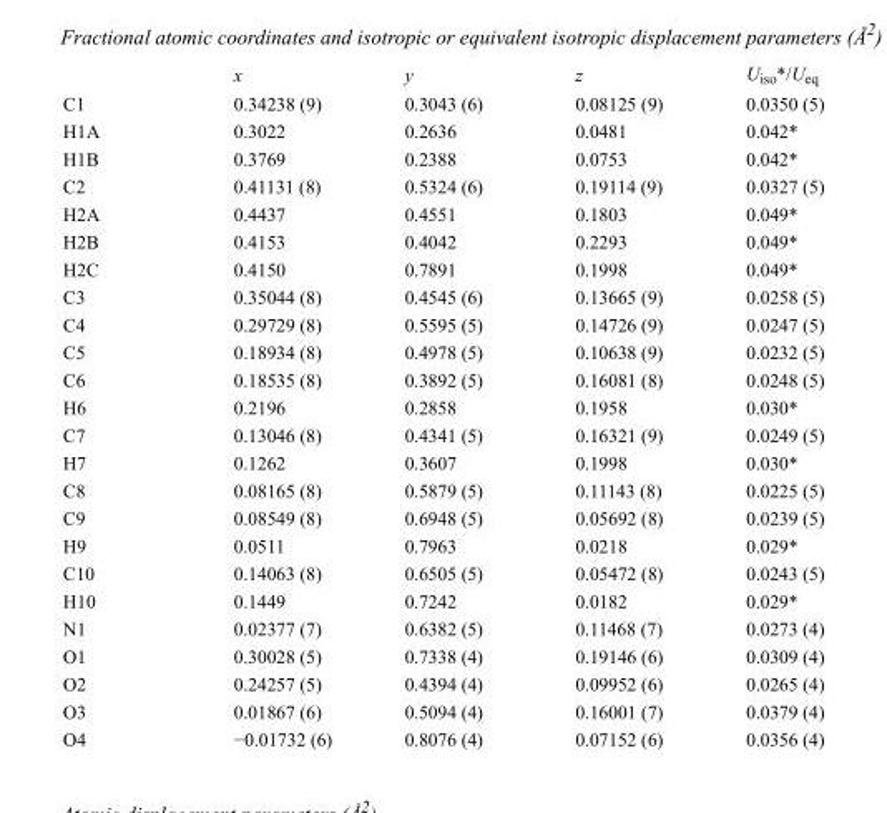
<table><thead><tr><td></td><td>x</td><td>y</td><td>z</td><td>U<sub>iso</sub>*/U<sub>eq</sub></td></tr></thead><tbody><tr><td>C1</td><td>0.34238 (9)</td><td>0.3043 (6)</td><td>0.08125 (9)</td><td>0.0350 (5)</td></tr><tr><td>H1A</td><td>0.3022</td><td>0.2636</td><td>0.0481</td><td>0.042*</td></tr><tr><td>H1B</td><td>0.3769</td><td>0.2388</td><td>0.0753</td><td>0.042*</td></tr><tr><td>C2</td><td>0.41131 (8)</td><td>0.5324 (6)</td><td>0.19114 (9)</td><td>0.0327 (5)</td></tr><tr><td>H2A</td><td>0.4437</td><td>0.4551</td><td>0.1803</td><td>0.049*</td></tr><tr><td>H2B</td><td>0.4153</td><td>0.4042</td><td>0.2293</td><td>0.049*</td></tr><tr><td>H2C</td><td>0.4150</td><td>0.7891</td><td>0.1998</td><td>0.049*</td></tr><tr><td>C3</td><td>0.35044 (8)</td><td>0.4545 (6)</td><td>0.13665 (9)</td><td>0.0258 (5)</td></tr><tr><td>C4</td><td>0.29729 (8)</td><td>0.5595 (5)</td><td>0.14726 (9)</td><td>0.0247 (5)</td></tr><tr><td>C5</td><td>0.18934 (8)</td><td>0.4978 (5)</td><td>0.10638 (9)</td><td>0.0232 (5)</td></tr><tr><td>C6</td><td>0.18535 (8)</td><td>0.3892 (5)</td><td>0.16081 (8)</td><td>0.0248 (5)</td></tr><tr><td>H6</td><td>0.2196</td><td>0.2858</td><td>0.1958</td><td>0.030*</td></tr><tr><td>C7</td><td>0.13046 (8)</td><td>0.4341 (5)</td><td>0.16321 (9)</td><td>0.0249 (5)</td></tr><tr><td>H7</td><td>0.1262</td><td>0.3607</td><td>0.1998</td><td>0.030*</td></tr><tr><td>C8</td><td>0.08165 (8)</td><td>0.5879 (5)</td><td>0.11143 (8)</td><td>0.0225 (5)</td></tr><tr><td>C9</td><td>0.08549 (8)</td><td>0.6948 (5)</td><td>0.05692 (8)</td><td>0.0239 (5)</td></tr><tr><td>H9</td><td>0.0511</td><td>0.7963</td><td>0.0218</td><td>0.029*</td></tr><tr><td>C10</td><td>0.14063 (8)</td><td>0.6505 (5)</td><td>0.05472 (8)</td><td>0.0243 (5)</td></tr><tr><td>H10</td><td>0.1449</td><td>0.7242</td><td>0.0182</td><td>0.029*</td></tr><tr><td>N1</td><td>0.02377 (7)</td><td>0.6382 (5)</td><td>0.11468 (7)</td><td>0.0273 (4)</td></tr><tr><td>O1</td><td>0.30028 (5)</td><td>0.7338 (4)</td><td>0.19146 (6)</td><td>0.0309 (4)</td></tr><tr><td>O2</td><td>0.24257 (5)</td><td>0.4394 (4)</td><td>0.09952 (6)</td><td>0.0265 (4)</td></tr><tr><td>O3</td><td>0.01867 (6)</td><td>0.5094 (4)</td><td>0.16001 (7)</td><td>0.0379 (4)</td></tr><tr><td>O4</td><td>−0.01732 (6)</td><td>0.8076 (4)</td><td>0.07152 (6)</td><td>0.0356 (4)</td></tr></tbody></table>